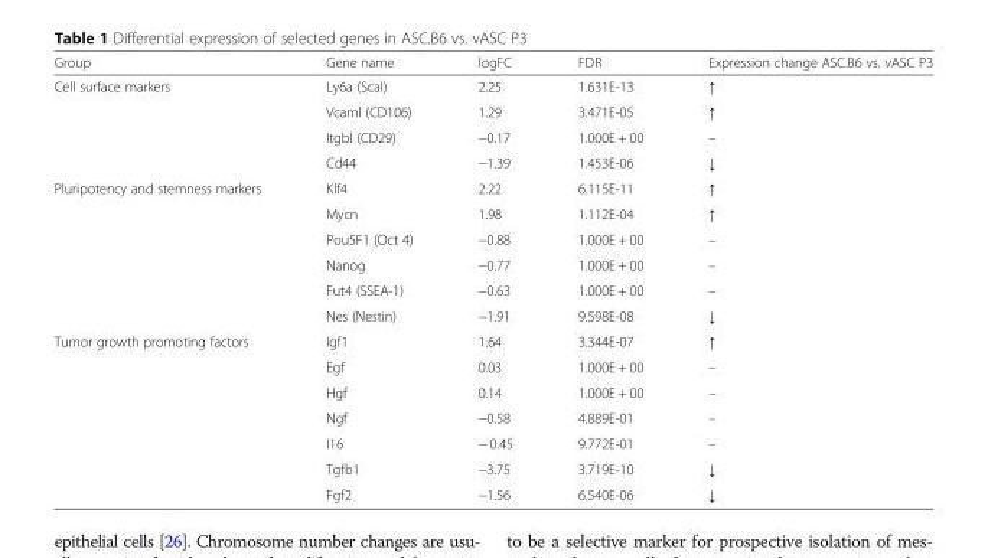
<table><thead><tr><td>Group</td><td>Gene name</td><td>logFC</td><td>FDR</td><td>Expression change ASC.B6 vs. vASC P3</td></tr></thead><tbody><tr><td rowspan="4">Cell surface markers</td><td>Ly6a (Scal)</td><td>2.25</td><td>1.631E-13</td><td>↑</td></tr><tr><td>Vcaml (CD106)</td><td>1.29</td><td>3.471E-05</td><td>↑</td></tr><tr><td>Itgbl (CD29)</td><td>−0.17</td><td>1.000E + 00</td><td>–</td></tr><tr><td>Cd44</td><td>−1.39</td><td>1.453E-06</td><td>↓</td></tr><tr><td rowspan="6">Pluripotency and stemness markers</td><td>Klf4</td><td>2.22</td><td>6.115E-11</td><td>↑</td></tr><tr><td>Mycn</td><td>1.98</td><td>1.112E-04</td><td>↑</td></tr><tr><td>Pou5F1 (Oct 4)</td><td>−0.88</td><td>1.000E + 00</td><td>–</td></tr><tr><td>Nanog</td><td>−0.77</td><td>1.000E + 00</td><td>–</td></tr><tr><td>Fut4 (SSEA-1)</td><td>−0.63</td><td>1.000E + 00</td><td>–</td></tr><tr><td>Nes (Nestin)</td><td>−1.91</td><td>9.598E-08</td><td>↓</td></tr><tr><td rowspan="7">Tumor growth promoting factors</td><td>Igf1</td><td>1.64</td><td>3.344E-07</td><td>↑</td></tr><tr><td>Egf</td><td>0.03</td><td>1.000E + 00</td><td>–</td></tr><tr><td>Hgf</td><td>0.14</td><td>1.000E + 00</td><td>–</td></tr><tr><td>Ngf</td><td>−0.58</td><td>4.889E-01</td><td>–</td></tr><tr><td>I16</td><td>− 0.45</td><td>9.772E-01</td><td>–</td></tr><tr><td>Tgfb1</td><td>−3.75</td><td>3.719E-10</td><td>↓</td></tr><tr><td>Fgf2</td><td>−1.56</td><td>6.540E-06</td><td>↓</td></tr></tbody></table>